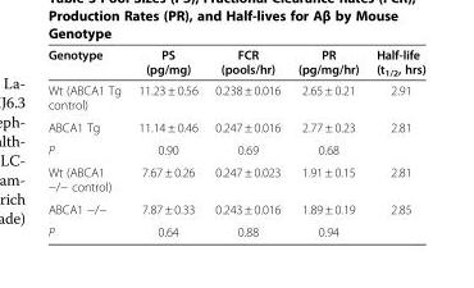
<table><thead><tr><td>Genotype</td><td>PS (pg/mg)</td><td>FCR (pools/hr)</td><td>PR (pg/mg/hr)</td><td>Half-life (t<sub>1/2</sub>, hrs)</td></tr></thead><tbody><tr><td>Wt (ABCA1 Tg control)</td><td>11.23 ± 0.56</td><td>0.238 ± 0.016</td><td>2.65 ± 0.21</td><td>2.91</td></tr><tr><td>ABCA1 Tg</td><td>11.14 ± 0.46</td><td>0.247 ± 0.016</td><td>2.77 ± 0.23</td><td>2.81</td></tr><tr><td>P</td><td>0.90</td><td>0.69</td><td>0.68</td><td></td></tr><tr><td>Wt (ABCA1 −/− control)</td><td>7.67 ± 0.26</td><td>0.247 ± 0.023</td><td>1.91 ± 0.15</td><td>2.81</td></tr><tr><td>ABCA1 −/−</td><td>7.87 ± 0.33</td><td>0.243 ± 0.016</td><td>1.89 ± 0.19</td><td>2.85</td></tr><tr><td>P</td><td>0.64</td><td>0.88</td><td>0.94</td><td></td></tr></tbody></table>